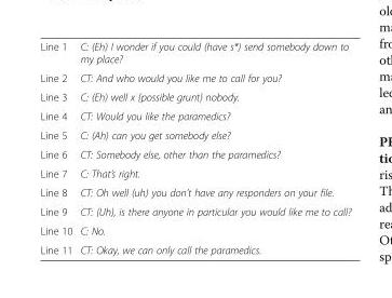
<table><tbody><tr><td>Line 1</td><td>C: (Eh) I wonder if you could (have s*) send somebody down to my place?</td></tr><tr><td>Line 2</td><td>CT: And who would you like me to call for you?</td></tr><tr><td>Line 3</td><td>C: (Eh) well x {possible grunt} nobody.</td></tr><tr><td>Line 4</td><td>CT: Would you like the paramedics?</td></tr><tr><td>Line 5</td><td>C: (Ah) can you get somebody else?</td></tr><tr><td>Line 6</td><td>CT: Somebody else, other than the paramedics?</td></tr><tr><td>Line 7</td><td>C: That’s right.</td></tr><tr><td>Line 8</td><td>CT: Oh well (uh) you don’t have any responders on your file.</td></tr><tr><td>Line 9</td><td>CT: (Uh), is there anyone in particular you would like me to call?</td></tr><tr><td>Line 10</td><td>C: No.</td></tr><tr><td>Line 11</td><td>CT: Okay, we can only call the paramedics.</td></tr></tbody></table>